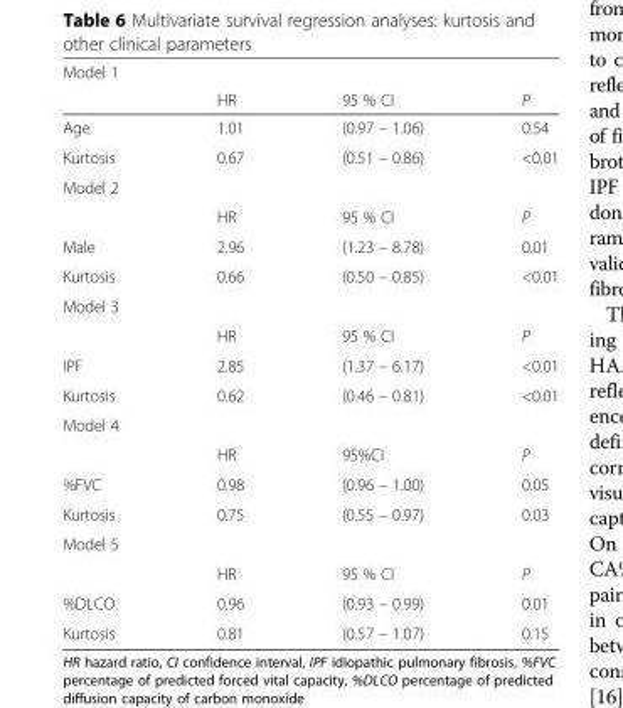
<table><thead><tr><td rowspan="2">Model 1</td><td rowspan="2">HR</td><td rowspan="2">95 % CI</td><td rowspan="2">P</td></tr><tr></tr></thead><tbody><tr><td>Age</td><td>1.01</td><td>(0.97 – 1.06)</td><td>0.54</td></tr><tr><td>Kurtosis</td><td>0.67</td><td>(0.51 – 0.86)</td><td>&lt;0.01</td></tr><tr><td colspan="4">Model 2</td></tr><tr><td></td><td>HR</td><td>95 % CI</td><td>P</td></tr><tr><td>Male</td><td>2.96</td><td>(1.23 – 8.78)</td><td>0.01</td></tr><tr><td>Kurtosis</td><td>0.66</td><td>(0.50 – 0.85)</td><td>&lt;0.01</td></tr><tr><td colspan="4">Model 3</td></tr><tr><td></td><td>HR</td><td>95 % CI</td><td>P</td></tr><tr><td>IPF</td><td>2.85</td><td>(1.37 – 6.17)</td><td>&lt;0.01</td></tr><tr><td>Kurtosis</td><td>0.62</td><td>(0.46 – 0.81)</td><td>&lt;0.01</td></tr><tr><td colspan="4">Model 4</td></tr><tr><td></td><td>HR</td><td>95%CI</td><td>P</td></tr><tr><td>%FVC</td><td>0.98</td><td>(0.96 – 1.00)</td><td>0.05</td></tr><tr><td>Kurtosis</td><td>0.75</td><td>(0.55 – 0.97)</td><td>0.03</td></tr><tr><td colspan="4">Model 5</td></tr><tr><td></td><td>HR</td><td>95 % CI</td><td>P</td></tr><tr><td>%DLCO</td><td>0.96</td><td>(0.93 – 0.99)</td><td>0.01</td></tr><tr><td>Kurtosis</td><td>0.81</td><td>(0.57 – 1.07)</td><td>0.15</td></tr></tbody></table>